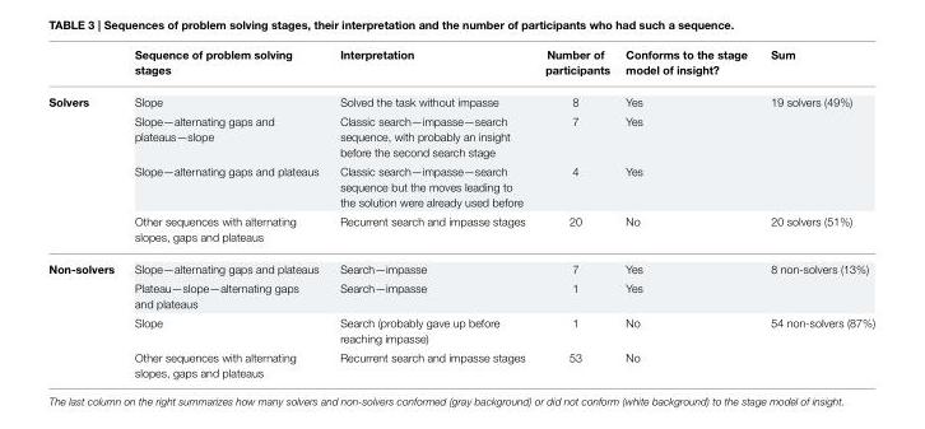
<table><thead><tr><td></td><td>Sequence of problem solving stages</td><td>Interpretation</td><td>Number of participants</td><td>Conforms to the stage model of insight?</td><td>Sum</td></tr></thead><tbody><tr><td rowspan="4">Solvers</td><td>Slope</td><td>Solved the task without impasse</td><td>8</td><td>Yes</td><td>19 solvers (49%)</td></tr><tr><td>Slope—alternating gaps and plateaus—slope</td><td>Classic search—impasse—search sequence, with probably an insight before the second search stage</td><td>7</td><td>Yes</td><td></td></tr><tr><td>Slope—alternating gaps and plateaus</td><td>Classic search—impasse—search sequence but the moves leading to the solution were already used before</td><td>4</td><td>Yes</td><td></td></tr><tr><td>Other sequences with alternating slopes, gaps and plateaus</td><td>Recurrent search and impasse stages</td><td>20</td><td>No</td><td>20 solvers (51%)</td></tr><tr><td rowspan="4">Non-solvers</td><td>Slope—alternating gaps and plateaus</td><td>Search—impasse</td><td>7</td><td>Yes</td><td>8 non-solvers (13%)</td></tr><tr><td>Plateau—slope—alternating gaps and plateaus</td><td>Search—impasse</td><td>1</td><td>Yes</td><td></td></tr><tr><td>Slope</td><td>Search (probably gave up before reaching impasse)</td><td>1</td><td>No</td><td>54 non-solvers (87%)</td></tr><tr><td>Other sequences with alternating slopes, gaps and plateaus</td><td>Recurrent search and impasse stages</td><td>53</td><td>No</td><td></td></tr></tbody></table>